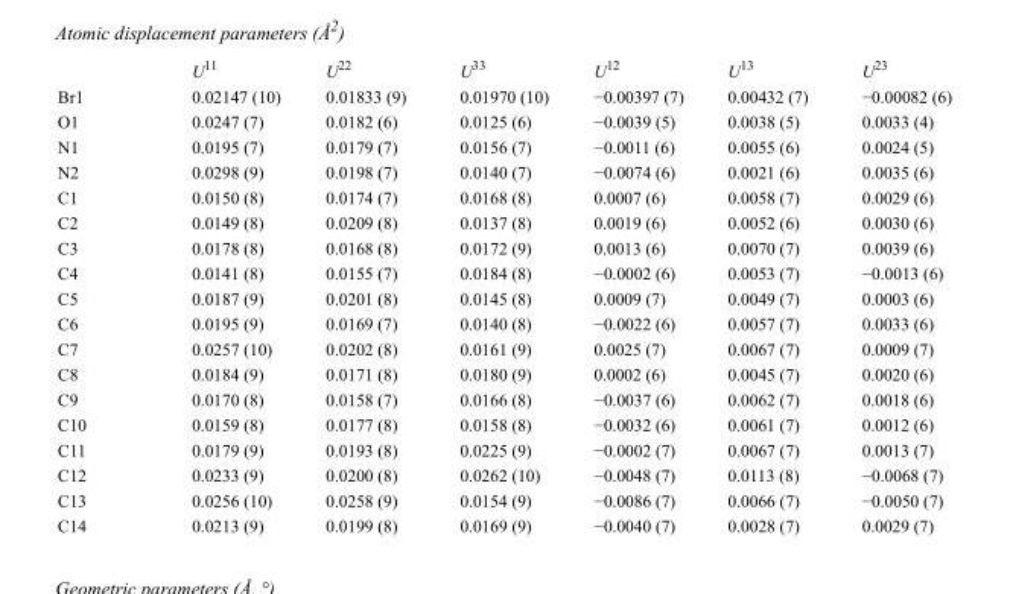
<table><thead><tr><td></td><td>U<sup>11</sup></td><td>U<sup>22</sup></td><td>U<sup>33</sup></td><td>U<sup>12</sup></td><td>U<sup>13</sup></td><td>U<sup>23</sup></td></tr></thead><tbody><tr><td>Br1</td><td>0.02147 (10)</td><td>0.01833 (9)</td><td>0.01970 (10)</td><td>−0.00397 (7)</td><td>0.00432 (7)</td><td>−0.00082 (6)</td></tr><tr><td>O1</td><td>0.0247 (7)</td><td>0.0182 (6)</td><td>0.0125 (6)</td><td>−0.0039 (5)</td><td>0.0038 (5)</td><td>0.0033 (4)</td></tr><tr><td>N1</td><td>0.0195 (7)</td><td>0.0179 (7)</td><td>0.0156 (7)</td><td>−0.0011 (6)</td><td>0.0055 (6)</td><td>0.0024 (5)</td></tr><tr><td>N2</td><td>0.0298 (9)</td><td>0.0198 (7)</td><td>0.0140 (7)</td><td>−0.0074 (6)</td><td>0.0021 (6)</td><td>0.0035 (6)</td></tr><tr><td>C1</td><td>0.0150 (8)</td><td>0.0174 (7)</td><td>0.0168 (8)</td><td>0.0007 (6)</td><td>0.0058 (7)</td><td>0.0029 (6)</td></tr><tr><td>C2</td><td>0.0149 (8)</td><td>0.0209 (8)</td><td>0.0137 (8)</td><td>0.0019 (6)</td><td>0.0052 (6)</td><td>0.0030 (6)</td></tr><tr><td>C3</td><td>0.0178 (8)</td><td>0.0168 (8)</td><td>0.0172 (9)</td><td>0.0013 (6)</td><td>0.0070 (7)</td><td>0.0039 (6)</td></tr><tr><td>C4</td><td>0.0141 (8)</td><td>0.0155 (7)</td><td>0.0184 (8)</td><td>−0.0002 (6)</td><td>0.0053 (7)</td><td>−0.0013 (6)</td></tr><tr><td>C5</td><td>0.0187 (9)</td><td>0.0201 (8)</td><td>0.0145 (8)</td><td>0.0009 (7)</td><td>0.0049 (7)</td><td>0.0003 (6)</td></tr><tr><td>C6</td><td>0.0195 (9)</td><td>0.0169 (7)</td><td>0.0140 (8)</td><td>−0.0022 (6)</td><td>0.0057 (7)</td><td>0.0033 (6)</td></tr><tr><td>C7</td><td>0.0257 (10)</td><td>0.0202 (8)</td><td>0.0161 (9)</td><td>0.0025 (7)</td><td>0.0067 (7)</td><td>0.0009 (7)</td></tr><tr><td>C8</td><td>0.0184 (9)</td><td>0.0171 (8)</td><td>0.0180 (9)</td><td>0.0002 (6)</td><td>0.0045 (7)</td><td>0.0020 (6)</td></tr><tr><td>C9</td><td>0.0170 (8)</td><td>0.0158 (7)</td><td>0.0166 (8)</td><td>−0.0037 (6)</td><td>0.0062 (7)</td><td>0.0018 (6)</td></tr><tr><td>C10</td><td>0.0159 (8)</td><td>0.0177 (8)</td><td>0.0158 (8)</td><td>−0.0032 (6)</td><td>0.0061 (7)</td><td>0.0012 (6)</td></tr><tr><td>C11</td><td>0.0179 (9)</td><td>0.0193 (8)</td><td>0.0225 (9)</td><td>−0.0002 (7)</td><td>0.0067 (7)</td><td>0.0013 (7)</td></tr><tr><td>C12</td><td>0.0233 (9)</td><td>0.0200 (8)</td><td>0.0262 (10)</td><td>−0.0048 (7)</td><td>0.0113 (8)</td><td>−0.0068 (7)</td></tr><tr><td>C13</td><td>0.0256 (10)</td><td>0.0258 (9)</td><td>0.0154 (9)</td><td>−0.0086 (7)</td><td>0.0066 (7)</td><td>−0.0050 (7)</td></tr><tr><td>C14</td><td>0.0213 (9)</td><td>0.0199 (8)</td><td>0.0169 (9)</td><td>−0.0040 (7)</td><td>0.0028 (7)</td><td>0.0029 (7)</td></tr></tbody></table>